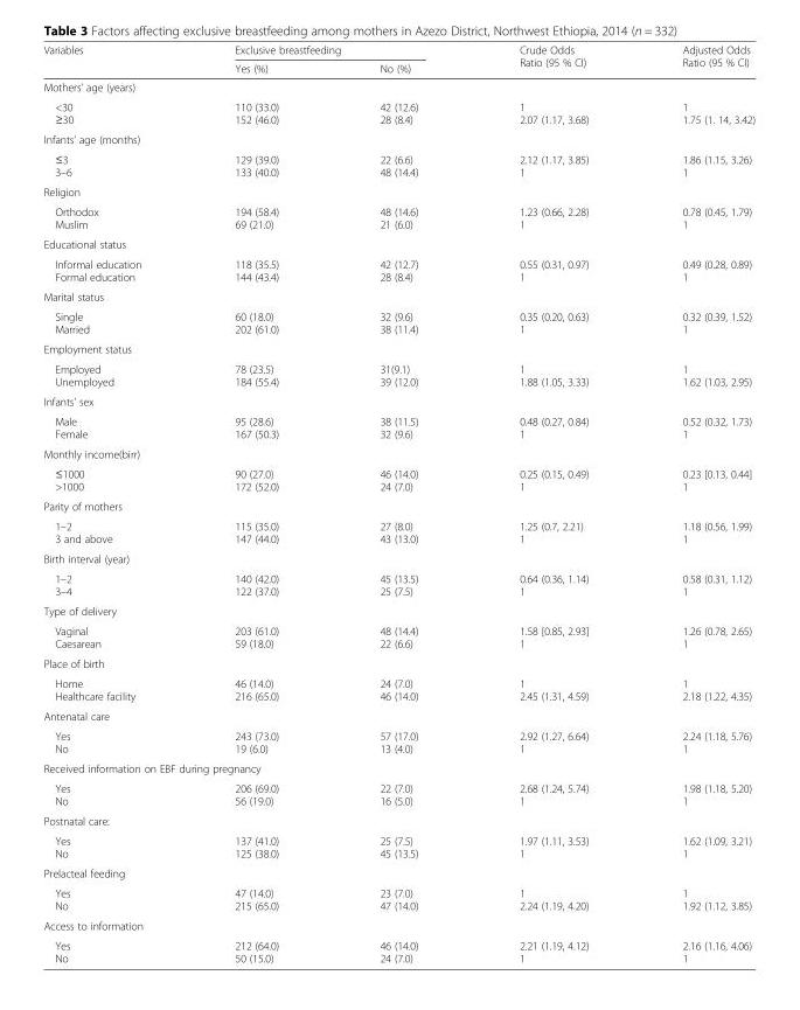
<table><thead><tr><td rowspan="2">Variables</td><td colspan="2">Exclusive breastfeeding</td><td rowspan="2">Crude Odds Ratio (95 % CI)</td><td rowspan="2">Adjusted Odds Ratio (95 % CI)</td></tr><tr><td>Yes (%)</td><td>No (%)</td></tr></thead><tbody><tr><td colspan="5">Mothers’ age (years)</td></tr><tr><td>&lt;30 ≥30</td><td>110 (33.0) 152 (46.0)</td><td>42 (12.6) 28 (8.4)</td><td>1 2.07 (1.17, 3.68)</td><td>1 1.75 (1. 14, 3.42)</td></tr><tr><td colspan="5">Infants’ age (months)</td></tr><tr><td>≤3 3–6</td><td>129 (39.0) 133 (40.0)</td><td>22 (6.6) 48 (14.4)</td><td>2.12 (1.17, 3.85) 1</td><td>1.86 (1.15, 3.26) 1</td></tr><tr><td colspan="5">Religion</td></tr><tr><td>Orthodox Muslim</td><td>194 (58.4) 69 (21.0)</td><td>48 (14.6) 21 (6.0)</td><td>1.23 (0.66, 2.28) 1</td><td>0.78 (0.45, 1.79) 1</td></tr><tr><td colspan="5">Educational status</td></tr><tr><td>Informal education Formal education</td><td>118 (35.5) 144 (43.4)</td><td>42 (12.7) 28 (8.4)</td><td>0.55 (0.31, 0.97) 1</td><td>0.49 (0.28, 0.89) 1</td></tr><tr><td colspan="5">Marital status</td></tr><tr><td>Single Married</td><td>60 (18.0) 202 (61.0)</td><td>32 (9.6) 38 (11.4)</td><td>0.35 (0.20, 0.63) 1</td><td>0.32 (0.39, 1.52) 1</td></tr><tr><td colspan="5">Employment status</td></tr><tr><td>Employed Unemployed</td><td>78 (23.5) 184 (55.4)</td><td>31(9.1) 39 (12.0)</td><td>1 1.88 (1.05, 3.33)</td><td>1 1.62 (1.03, 2.95)</td></tr><tr><td colspan="5">Infants’ sex</td></tr><tr><td>Male Female</td><td>95 (28.6) 167 (50.3)</td><td>38 (11.5) 32 (9.6)</td><td>0.48 (0.27, 0.84) 1</td><td>0.52 (0.32, 1.73) 1</td></tr><tr><td colspan="5">Monthly income(birr)</td></tr><tr><td>≤1000 &gt;1000</td><td>90 (27.0) 172 (52.0)</td><td>46 (14.0) 24 (7.0)</td><td>0.25 (0.15, 0.49) 1</td><td>0.23 [0.13, 0.44] 1</td></tr><tr><td colspan="5">Parity of mothers</td></tr><tr><td>1–2 3 and above</td><td>115 (35.0) 147 (44.0)</td><td>27 (8.0) 43 (13.0)</td><td>1.25 (0.7, 2.21) 1</td><td>1.18 (0.56, 1.99) 1</td></tr><tr><td colspan="5">Birth interval (year)</td></tr><tr><td>1–2 3–4</td><td>140 (42.0) 122 (37.0)</td><td>45 (13.5) 25 (7.5)</td><td>0.64 (0.36, 1.14) 1</td><td>0.58 (0.31, 1.12) 1</td></tr><tr><td colspan="5">Type of delivery</td></tr><tr><td>Vaginal Caesarean</td><td>203 (61.0) 59 (18.0)</td><td>48 (14.4) 22 (6.6)</td><td>1.58 [0.85, 2.93] 1</td><td>1.26 (0.78, 2.65) 1</td></tr><tr><td colspan="5">Place of birth</td></tr><tr><td>Home Healthcare facility</td><td>46 (14.0) 216 (65.0)</td><td>24 (7.0) 46 (14.0)</td><td>1 2.45 (1.31, 4.59)</td><td>1 2.18 (1.22, 4.35)</td></tr><tr><td colspan="5">Antenatal care</td></tr><tr><td>Yes No</td><td>243 (73.0) 19 (6.0)</td><td>57 (17.0) 13 (4.0)</td><td>2.92 (1.27, 6.64) 1</td><td>2.24 (1.18, 5.76) 1</td></tr><tr><td colspan="5">Received information on EBF during pregnancy</td></tr><tr><td>Yes No</td><td>206 (69.0) 56 (19.0)</td><td>22 (7.0) 16 (5.0)</td><td>2.68 (1.24, 5.74) 1</td><td>1.98 (1.18, 5.20) 1</td></tr><tr><td colspan="5">Postnatal care:</td></tr><tr><td>Yes No</td><td>137 (41.0) 125 (38.0)</td><td>25 (7.5) 45 (13.5)</td><td>1.97 (1.11, 3.53) 1</td><td>1.62 (1.09, 3.21) 1</td></tr><tr><td colspan="5">Prelacteal feeding</td></tr><tr><td>Yes No</td><td>47 (14.0) 215 (65.0)</td><td>23 (7.0) 47 (14.0)</td><td>1 2.24 (1.19, 4.20)</td><td>1 1.92 (1.12, 3.85)</td></tr><tr><td colspan="5">Access to information</td></tr><tr><td>Yes No</td><td>212 (64.0) 50 (15.0)</td><td>46 (14.0) 24 (7.0)</td><td>2.21 (1.19, 4.12) 1</td><td>2.16 (1.16, 4.06) 1</td></tr></tbody></table>